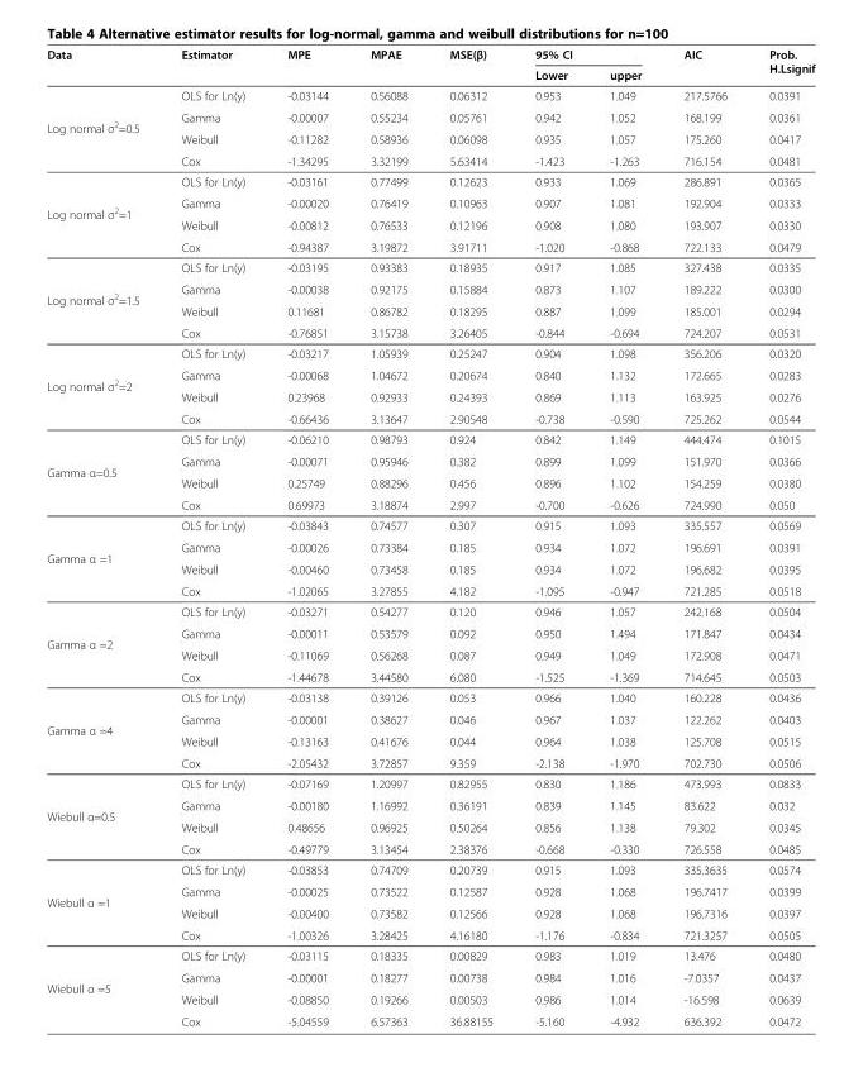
<table><thead><tr><td rowspan="2">Data</td><td rowspan="2">Estimator</td><td rowspan="2">MPE</td><td rowspan="2">MPAE</td><td rowspan="2">MSE(β)</td><td colspan="2">95% CI</td><td rowspan="2">AIC</td><td rowspan="2">Prob. H.Lsignif</td></tr><tr><td>Lower</td><td>upper</td></tr></thead><tbody><tr><td rowspan="4">Log normal σ<sup>2</sup>=0.5</td><td>OLS for Ln(y)</td><td>-0.03144</td><td>0.56088</td><td>0.06312</td><td>0.953</td><td>1.049</td><td>217.5766</td><td>0.0391</td></tr><tr><td>Gamma</td><td>-0.00007</td><td>0.55234</td><td>0.05761</td><td>0.942</td><td>1.052</td><td>168.199</td><td>0.0361</td></tr><tr><td>Weibull</td><td>-0.11282</td><td>0.58936</td><td>0.06098</td><td>0.935</td><td>1.057</td><td>175.260</td><td>0.0417</td></tr><tr><td>Cox</td><td>-1.34295</td><td>3.32199</td><td>5.63414</td><td>-1.423</td><td>-1.263</td><td>716.154</td><td>0.0481</td></tr><tr><td rowspan="4">Log normal σ<sup>2</sup>=1</td><td>OLS for Ln(y)</td><td>-0.03161</td><td>0.77499</td><td>0.12623</td><td>0.933</td><td>1.069</td><td>286.891</td><td>0.0365</td></tr><tr><td>Gamma</td><td>-0.00020</td><td>0.76419</td><td>0.10963</td><td>0.907</td><td>1.081</td><td>192.904</td><td>0.0333</td></tr><tr><td>Weibull</td><td>-0.00812</td><td>0.76533</td><td>0.12196</td><td>0.908</td><td>1.080</td><td>193.907</td><td>0.0330</td></tr><tr><td>Cox</td><td>-0.94387</td><td>3.19872</td><td>3.91711</td><td>-1.020</td><td>-0.868</td><td>722.133</td><td>0.0479</td></tr><tr><td rowspan="4">Log normal σ<sup>2</sup>=1.5</td><td>OLS for Ln(y)</td><td>-0.03195</td><td>0.93383</td><td>0.18935</td><td>0.917</td><td>1.085</td><td>327.438</td><td>0.0335</td></tr><tr><td>Gamma</td><td>-0.00038</td><td>0.92175</td><td>0.15884</td><td>0.873</td><td>1.107</td><td>189.222</td><td>0.0300</td></tr><tr><td>Weibull</td><td>0.11681</td><td>0.86782</td><td>0.18295</td><td>0.887</td><td>1.099</td><td>185.001</td><td>0.0294</td></tr><tr><td>Cox</td><td>-0.76851</td><td>3.15738</td><td>3.26405</td><td>-0.844</td><td>-0.694</td><td>724.207</td><td>0.0531</td></tr><tr><td rowspan="4">Log normal σ<sup>2</sup>=2</td><td>OLS for Ln(y)</td><td>-0.03217</td><td>1.05939</td><td>0.25247</td><td>0.904</td><td>1.098</td><td>356.206</td><td>0.0320</td></tr><tr><td>Gamma</td><td>-0.00068</td><td>1.04672</td><td>0.20674</td><td>0.840</td><td>1.132</td><td>172.665</td><td>0.0283</td></tr><tr><td>Weibull</td><td>0.23968</td><td>0.92933</td><td>0.24393</td><td>0.869</td><td>1.113</td><td>163.925</td><td>0.0276</td></tr><tr><td>Cox</td><td>-0.66436</td><td>3.13647</td><td>2.90548</td><td>-0.738</td><td>-0.590</td><td>725.262</td><td>0.0544</td></tr><tr><td rowspan="4">Gamma α=0.5</td><td>OLS for Ln(y)</td><td>-0.06210</td><td>0.98793</td><td>0.924</td><td>0.842</td><td>1.149</td><td>444.474</td><td>0.1015</td></tr><tr><td>Gamma</td><td>-0.00071</td><td>0.95946</td><td>0.382</td><td>0.899</td><td>1.099</td><td>151.970</td><td>0.0366</td></tr><tr><td>Weibull</td><td>0.25749</td><td>0.88296</td><td>0.456</td><td>0.896</td><td>1.102</td><td>154.259</td><td>0.0380</td></tr><tr><td>Cox</td><td>0.69973</td><td>3.18874</td><td>2.997</td><td>-0.700</td><td>-0.626</td><td>724.990</td><td>0.050</td></tr><tr><td rowspan="4">Gamma α =1</td><td>OLS for Ln(y)</td><td>-0.03843</td><td>0.74577</td><td>0.307</td><td>0.915</td><td>1.093</td><td>335.557</td><td>0.0569</td></tr><tr><td>Gamma</td><td>-0.00026</td><td>0.73384</td><td>0.185</td><td>0.934</td><td>1.072</td><td>196.691</td><td>0.0391</td></tr><tr><td>Weibull</td><td>-0.00460</td><td>0.73458</td><td>0.185</td><td>0.934</td><td>1.072</td><td>196.682</td><td>0.0395</td></tr><tr><td>Cox</td><td>-1.02065</td><td>3.27855</td><td>4.182</td><td>-1.095</td><td>-0.947</td><td>721.285</td><td>0.0518</td></tr><tr><td rowspan="4">Gamma α =2</td><td>OLS for Ln(y)</td><td>-0.03271</td><td>0.54277</td><td>0.120</td><td>0.946</td><td>1.057</td><td>242.168</td><td>0.0504</td></tr><tr><td>Gamma</td><td>-0.00011</td><td>0.53579</td><td>0.092</td><td>0.950</td><td>1.494</td><td>171.847</td><td>0.0434</td></tr><tr><td>Weibull</td><td>-0.11069</td><td>0.56268</td><td>0.087</td><td>0.949</td><td>1.049</td><td>172.908</td><td>0.0471</td></tr><tr><td>Cox</td><td>-1.44678</td><td>3.44580</td><td>6.080</td><td>-1.525</td><td>-1.369</td><td>714.645</td><td>0.0503</td></tr><tr><td rowspan="4">Gamma α =4</td><td>OLS for Ln(y)</td><td>-0.03138</td><td>0.39126</td><td>0.053</td><td>0.966</td><td>1.040</td><td>160.228</td><td>0.0436</td></tr><tr><td>Gamma</td><td>-0.00001</td><td>0.38627</td><td>0.046</td><td>0.967</td><td>1.037</td><td>122.262</td><td>0.0403</td></tr><tr><td>Weibull</td><td>-0.13163</td><td>0.41676</td><td>0.044</td><td>0.964</td><td>1.038</td><td>125.708</td><td>0.0515</td></tr><tr><td>Cox</td><td>-2.05432</td><td>3.72857</td><td>9.359</td><td>-2.138</td><td>-1.970</td><td>702.730</td><td>0.0506</td></tr><tr><td rowspan="4">Wiebull α=0.5</td><td>OLS for Ln(y)</td><td>-0.07169</td><td>1.20997</td><td>0.82955</td><td>0.830</td><td>1.186</td><td>473.993</td><td>0.0833</td></tr><tr><td>Gamma</td><td>-0.00180</td><td>1.16992</td><td>0.36191</td><td>0.839</td><td>1.145</td><td>83.622</td><td>0.032</td></tr><tr><td>Weibull</td><td>0.48656</td><td>0.96925</td><td>0.50264</td><td>0.856</td><td>1.138</td><td>79.302</td><td>0.0345</td></tr><tr><td>Cox</td><td>-0.49779</td><td>3.13454</td><td>2.38376</td><td>-0.668</td><td>-0.330</td><td>726.558</td><td>0.0485</td></tr><tr><td rowspan="4">Wiebull α =1</td><td>OLS for Ln(y)</td><td>-0.03853</td><td>0.74709</td><td>0.20739</td><td>0.915</td><td>1.093</td><td>335.3635</td><td>0.0574</td></tr><tr><td>Gamma</td><td>-0.00025</td><td>0.73522</td><td>0.12587</td><td>0.928</td><td>1.068</td><td>196.7417</td><td>0.0399</td></tr><tr><td>Weibull</td><td>-0.00400</td><td>0.73582</td><td>0.12566</td><td>0.928</td><td>1.068</td><td>196.7316</td><td>0.0397</td></tr><tr><td>Cox</td><td>-1.00326</td><td>3.28425</td><td>4.16180</td><td>-1.176</td><td>-0.834</td><td>721.3257</td><td>0.0505</td></tr><tr><td rowspan="4">Wiebull α =5</td><td>OLS for Ln(y)</td><td>-0.03115</td><td>0.18335</td><td>0.00829</td><td>0.983</td><td>1.019</td><td>13.476</td><td>0.0480</td></tr><tr><td>Gamma</td><td>-0.00001</td><td>0.18277</td><td>0.00738</td><td>0.984</td><td>1.016</td><td>-7.0357</td><td>0.0437</td></tr><tr><td>Weibull</td><td>-0.08850</td><td>0.19266</td><td>0.00503</td><td>0.986</td><td>1.014</td><td>-16.598</td><td>0.0639</td></tr><tr><td>Cox</td><td>-5.04559</td><td>6.57363</td><td>36.88155</td><td>-5.160</td><td>-4.932</td><td>636.392</td><td>0.0472</td></tr></tbody></table>